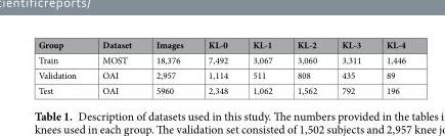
<table><thead><tr><td>Group</td><td>Dataset</td><td>Images</td><td>KL-0</td><td>KL-1</td><td>KL-2</td><td>KL-3</td><td>KL-4</td></tr></thead><tbody><tr><td>Train</td><td>MOST</td><td>18,376</td><td>7,492</td><td>3,067</td><td>3,060</td><td>3,311</td><td>1,446</td></tr><tr><td>Validation</td><td>OAI</td><td>2,957</td><td>1,114</td><td>511</td><td>808</td><td>435</td><td>89</td></tr><tr><td>Test</td><td>OAI</td><td>5960</td><td>2,348</td><td>1,062</td><td>1,562</td><td>792</td><td>196</td></tr></tbody></table>